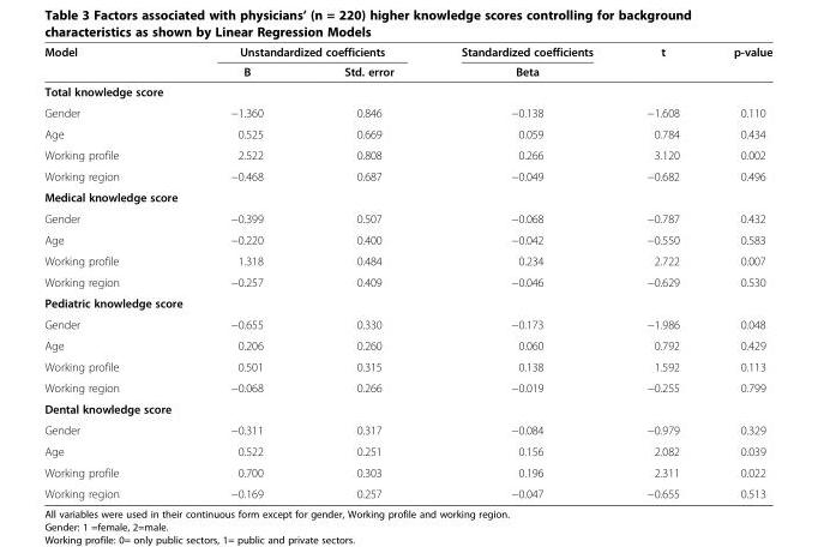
<table><thead><tr><td rowspan="2">Model</td><td colspan="2">Unstandardized coefficients</td><td rowspan="2">Standardized coefficients Beta</td><td rowspan="2">t</td><td rowspan="2">p-value</td></tr><tr><td>B</td><td>Std. error</td></tr></thead><tbody><tr><td colspan="6">Total knowledge score</td></tr><tr><td>Gender</td><td>−1.360</td><td>0.846</td><td>−0.138</td><td>−1.608</td><td>0.110</td></tr><tr><td>Age</td><td>0.525</td><td>0.669</td><td>0.059</td><td>0.784</td><td>0.434</td></tr><tr><td>Working profile</td><td>2.522</td><td>0.808</td><td>0.266</td><td>3.120</td><td>0.002</td></tr><tr><td>Working region</td><td>−0.468</td><td>0.687</td><td>−0.049</td><td>−0.682</td><td>0.496</td></tr><tr><td colspan="6">Medical knowledge score</td></tr><tr><td>Gender</td><td>−0.399</td><td>0.507</td><td>−0.068</td><td>−0.787</td><td>0.432</td></tr><tr><td>Age</td><td>−0.220</td><td>0.400</td><td>−0.042</td><td>−0.550</td><td>0.583</td></tr><tr><td>Working profile</td><td>1.318</td><td>0.484</td><td>0.234</td><td>2.722</td><td>0.007</td></tr><tr><td>Working region</td><td>−0.257</td><td>0.409</td><td>−0.046</td><td>−0.629</td><td>0.530</td></tr><tr><td colspan="6">Pediatric knowledge score</td></tr><tr><td>Gender</td><td>−0.655</td><td>0.330</td><td>−0.173</td><td>−1.986</td><td>0.048</td></tr><tr><td>Age</td><td>0.206</td><td>0.260</td><td>0.060</td><td>0.792</td><td>0.429</td></tr><tr><td>Working profile</td><td>0.501</td><td>0.315</td><td>0.138</td><td>1.592</td><td>0.113</td></tr><tr><td>Working region</td><td>−0.068</td><td>0.266</td><td>−0.019</td><td>−0.255</td><td>0.799</td></tr><tr><td colspan="6">Dental knowledge score</td></tr><tr><td>Gender</td><td>−0.311</td><td>0.317</td><td>−0.084</td><td>−0.979</td><td>0.329</td></tr><tr><td>Age</td><td>0.522</td><td>0.251</td><td>0.156</td><td>2.082</td><td>0.039</td></tr><tr><td>Working profile</td><td>0.700</td><td>0.303</td><td>0.196</td><td>2.311</td><td>0.022</td></tr><tr><td>Working region</td><td>−0.169</td><td>0.257</td><td>−0.047</td><td>−0.655</td><td>0.513</td></tr></tbody></table>